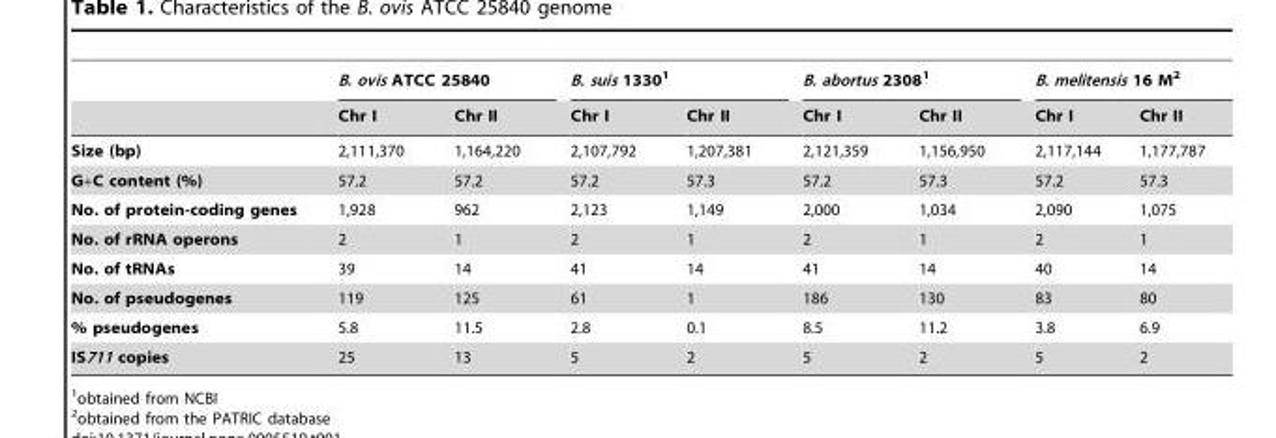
<table><thead><tr><td rowspan="2"></td><td colspan="2">B. ovis ATCC 25840</td><td colspan="2">B. suis 1330<sup>1</sup></td><td colspan="2">B. abortus 2308<sup>1</sup></td><td colspan="2">B. melitensis 16 M<sup>2</sup></td></tr><tr><td>Chr I</td><td>Chr II</td><td>Chr I</td><td>Chr II</td><td>Chr I</td><td>Chr II</td><td>Chr I</td><td>Chr II</td></tr></thead><tbody><tr><td>Size (bp)</td><td>2,111,370</td><td>1,164,220</td><td>2,107,792</td><td>1,207,381</td><td>2,121,359</td><td>1,156,950</td><td>2,117,144</td><td>1,177,787</td></tr><tr><td>G+C content (%)</td><td>57.2</td><td>57.2</td><td>57.2</td><td>57.3</td><td>57.2</td><td>57.3</td><td>57.2</td><td>57.3</td></tr><tr><td>No. of protein-coding genes</td><td>1,928</td><td>962</td><td>2,123</td><td>1,149</td><td>2,000</td><td>1,034</td><td>2,090</td><td>1,075</td></tr><tr><td>No. of rRNA operons</td><td>2</td><td>1</td><td>2</td><td>1</td><td>2</td><td>1</td><td>2</td><td>1</td></tr><tr><td>No. of tRNAs</td><td>39</td><td>14</td><td>41</td><td>14</td><td>41</td><td>14</td><td>40</td><td>14</td></tr><tr><td>No. of pseudogenes</td><td>119</td><td>125</td><td>61</td><td>1</td><td>186</td><td>130</td><td>83</td><td>80</td></tr><tr><td>% pseudogenes</td><td>5.8</td><td>11.5</td><td>2.8</td><td>0.1</td><td>8.5</td><td>11.2</td><td>3.8</td><td>6.9</td></tr><tr><td>IS711 copies</td><td>25</td><td>13</td><td>5</td><td>2</td><td>5</td><td>2</td><td>5</td><td>2</td></tr></tbody></table>